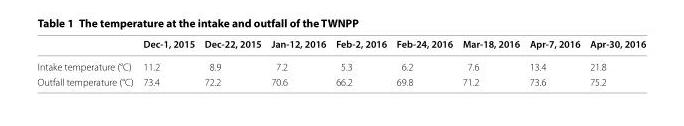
<table><thead><tr><td></td><td>Dec-1, 2015</td><td>Dec-22, 2015</td><td>Jan-12, 2016</td><td>Feb-2, 2016</td><td>Feb-24, 2016</td><td>Mar-18, 2016</td><td>Apr-7, 2016</td><td>Apr-30, 2016</td></tr></thead><tbody><tr><td>Intake temperature (°C)</td><td>11.2</td><td>8.9</td><td>7.2</td><td>5.3</td><td>6.2</td><td>7.6</td><td>13.4</td><td>21.8</td></tr><tr><td>Outfall temperature (°C)</td><td>73.4</td><td>72.2</td><td>70.6</td><td>66.2</td><td>69.8</td><td>71.2</td><td>73.6</td><td>75.2</td></tr></tbody></table>